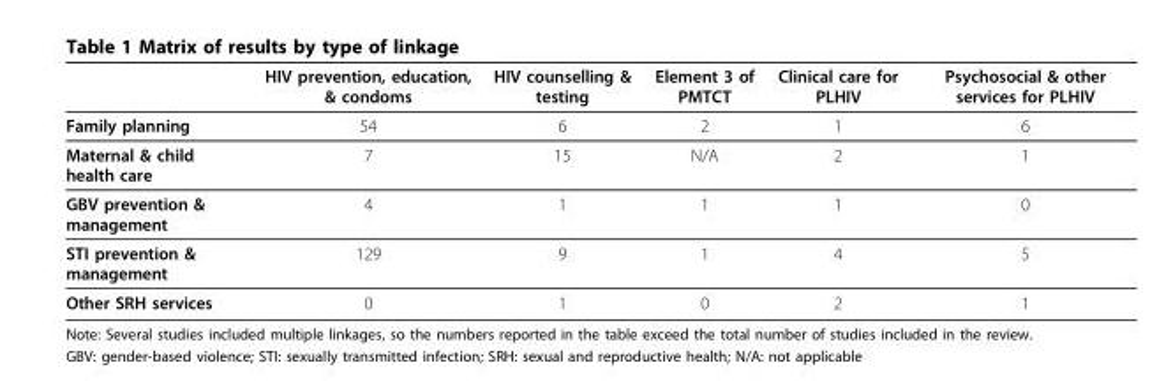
<table><thead><tr><td></td><td>HIV prevention, education, &amp; condoms</td><td>HIV counselling &amp; testing</td><td>Element 3 of PMTCT</td><td>Clinical care for PLHIV</td><td>Psychosocial &amp; other services for PLHIV</td></tr></thead><tbody><tr><td>Family planning</td><td>54</td><td>6</td><td>2</td><td>1</td><td>6</td></tr><tr><td>Maternal &amp; child health care</td><td>7</td><td>15</td><td>N/A</td><td>2</td><td>1</td></tr><tr><td>GBV prevention &amp; management</td><td>4</td><td>1</td><td>1</td><td>1</td><td>0</td></tr><tr><td>STI prevention &amp; management</td><td>129</td><td>9</td><td>1</td><td>4</td><td>5</td></tr><tr><td>Other SRH services</td><td>0</td><td>1</td><td>0</td><td>2</td><td>1</td></tr></tbody></table>